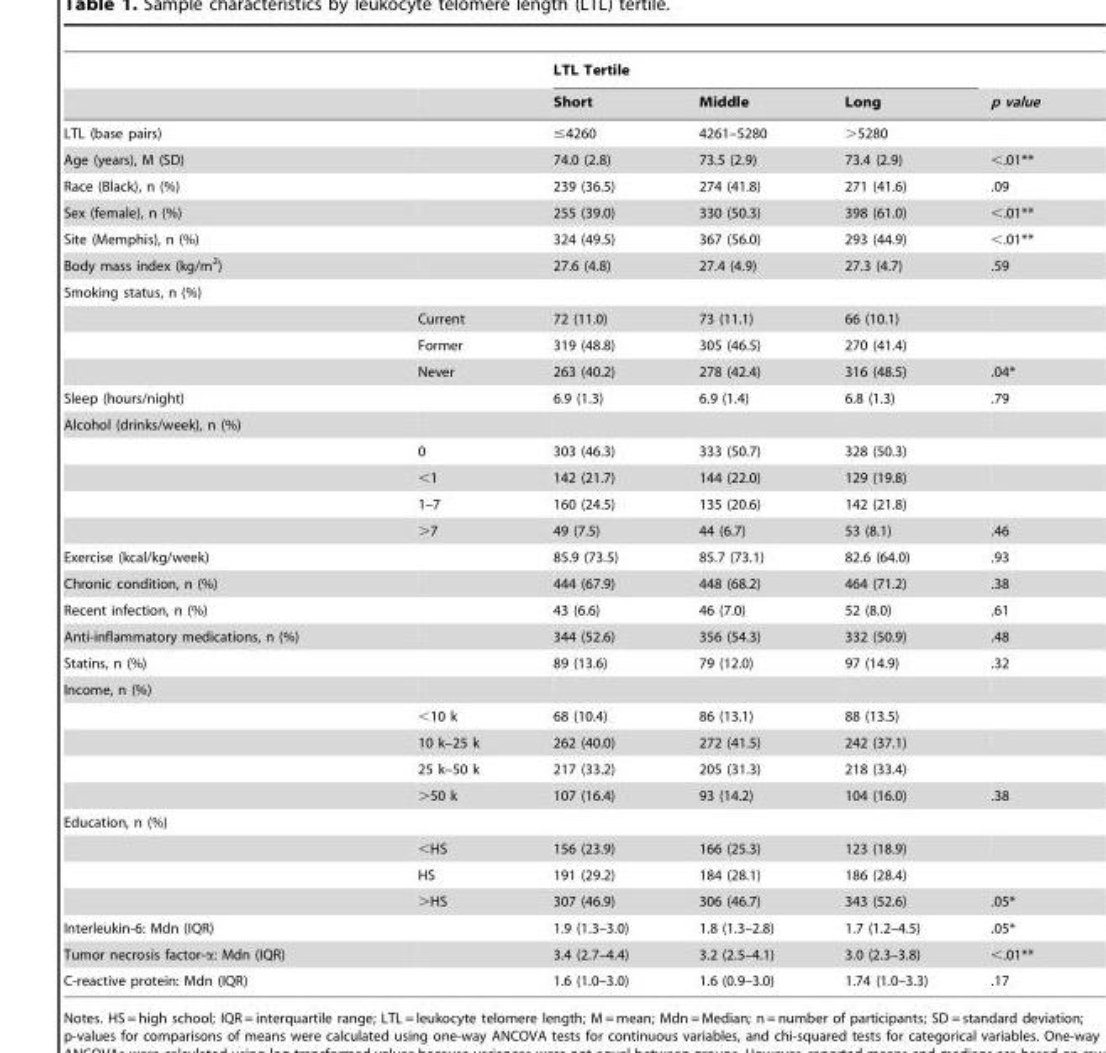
<table><thead><tr><td rowspan="2"></td><td rowspan="2"></td><td colspan="3">LTL Tertile</td><td rowspan="2">p value</td></tr><tr><td>Short</td><td>Middle</td><td>Long</td></tr></thead><tbody><tr><td>LTL (base pairs)</td><td></td><td>≤4260</td><td>4261–5280</td><td>&gt;5280</td><td></td></tr><tr><td>Age (years), M (SD)</td><td></td><td>74.0 (2.8)</td><td>73.5 (2.9)</td><td>73.4 (2.9)</td><td>&lt;.01**</td></tr><tr><td>Race (Black), n (%)</td><td></td><td>239 (36.5)</td><td>274 (41.8)</td><td>271 (41.6)</td><td>.09</td></tr><tr><td>Sex (female), n (%)</td><td></td><td>255 (39.0)</td><td>330 (50.3)</td><td>398 (61.0)</td><td>&lt;.01**</td></tr><tr><td>Site (Memphis), n (%)</td><td></td><td>324 (49.5)</td><td>367 (56.0)</td><td>293 (44.9)</td><td>&lt;.01**</td></tr><tr><td>Body mass index (kg/m<sup>2</sup>)</td><td></td><td>27.6 (4.8)</td><td>27.4 (4.9)</td><td>27.3 (4.7)</td><td>.59</td></tr><tr><td colspan="6">Smoking status, n (%)</td></tr><tr><td></td><td>Current</td><td>72 (11.0)</td><td>73 (11.1)</td><td>66 (10.1)</td><td></td></tr><tr><td></td><td>Former</td><td>319 (48.8)</td><td>305 (46.5)</td><td>270 (41.4)</td><td></td></tr><tr><td></td><td>Never</td><td>263 (40.2)</td><td>278 (42.4)</td><td>316 (48.5)</td><td>.04*</td></tr><tr><td>Sleep (hours/night)</td><td></td><td>6.9 (1.3)</td><td>6.9 (1.4)</td><td>6.8 (1.3)</td><td>.79</td></tr><tr><td colspan="6">Alcohol (drinks/week), n (%)</td></tr><tr><td></td><td>0</td><td>303 (46.3)</td><td>333 (50.7)</td><td>328 (50.3)</td><td></td></tr><tr><td></td><td>&lt;1</td><td>142 (21.7)</td><td>144 (22.0)</td><td>129 (19.8)</td><td></td></tr><tr><td></td><td>1–7</td><td>160 (24.5)</td><td>135 (20.6)</td><td>142 (21.8)</td><td></td></tr><tr><td></td><td>&gt;7</td><td>49 (7.5)</td><td>44 (6.7)</td><td>53 (8.1)</td><td>.46</td></tr><tr><td>Exercise (kcal/kg/week)</td><td></td><td>85.9 (73.5)</td><td>85.7 (73.1)</td><td>82.6 (64.0)</td><td>.93</td></tr><tr><td>Chronic condition, n (%)</td><td></td><td>444 (67.9)</td><td>448 (68.2)</td><td>464 (71.2)</td><td>.38</td></tr><tr><td>Recent infection, n (%)</td><td></td><td>43 (6.6)</td><td>46 (7.0)</td><td>52 (8.0)</td><td>.61</td></tr><tr><td>Anti-inflammatory medications, n (%)</td><td></td><td>344 (52.6)</td><td>356 (54.3)</td><td>332 (50.9)</td><td>.48</td></tr><tr><td>Statins, n (%)</td><td></td><td>89 (13.6)</td><td>79 (12.0)</td><td>97 (14.9)</td><td>.32</td></tr><tr><td colspan="6">Income, n (%)</td></tr><tr><td></td><td>&lt;10 k</td><td>68 (10.4)</td><td>86 (13.1)</td><td>88 (13.5)</td><td></td></tr><tr><td></td><td>10 k–25 k</td><td>262 (40.0)</td><td>272 (41.5)</td><td>242 (37.1)</td><td></td></tr><tr><td></td><td>25 k–50 k</td><td>217 (33.2)</td><td>205 (31.3)</td><td>218 (33.4)</td><td></td></tr><tr><td></td><td>&gt;50 k</td><td>107 (16.4)</td><td>93 (14.2)</td><td>104 (16.0)</td><td>.38</td></tr><tr><td colspan="6">Education, n (%)</td></tr><tr><td></td><td>&lt;HS</td><td>156 (23.9)</td><td>166 (25.3)</td><td>123 (18.9)</td><td></td></tr><tr><td></td><td>HS</td><td>191 (29.2)</td><td>184 (28.1)</td><td>186 (28.4)</td><td></td></tr><tr><td></td><td>&gt;HS</td><td>307 (46.9)</td><td>306 (46.7)</td><td>343 (52.6)</td><td>.05*</td></tr><tr><td>Interleukin-6: Mdn (IQR)</td><td></td><td>1.9 (1.3–3.0)</td><td>1.8 (1.3–2.8)</td><td>1.7 (1.2–4.5)</td><td>.05*</td></tr><tr><td>Tumor necrosis factor-α: Mdn (IQR)</td><td></td><td>3.4 (2.7–4.4)</td><td>3.2 (2.5–4.1)</td><td>3.0 (2.3–3.8)</td><td>&lt;.01**</td></tr><tr><td>C-reactive protein: Mdn (IQR)</td><td></td><td>1.6 (1.0–3.0)</td><td>1.6 (0.9–3.0)</td><td>1.74 (1.0–3.3)</td><td>.17</td></tr></tbody></table>